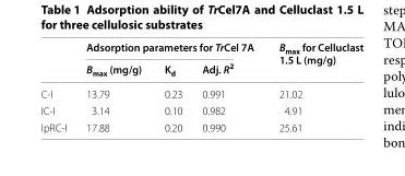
<table><thead><tr><td rowspan="2"></td><td colspan="3">Adsorption parameters for TrCel 7A</td><td rowspan="2">B<sub>max</sub> for Celluclast 1.5 L (mg/g)</td></tr><tr><td>B<sub>max</sub> (mg/g)</td><td>K<sub>d</sub></td><td>Adj. R<sup>2</sup></td></tr></thead><tbody><tr><td>C-I</td><td>13.79</td><td>0.23</td><td>0.991</td><td>21.02</td></tr><tr><td>IC-I</td><td>3.14</td><td>0.10</td><td>0.982</td><td>4.91</td></tr><tr><td>IpRC-I</td><td>17.88</td><td>0.20</td><td>0.990</td><td>25.61</td></tr></tbody></table>